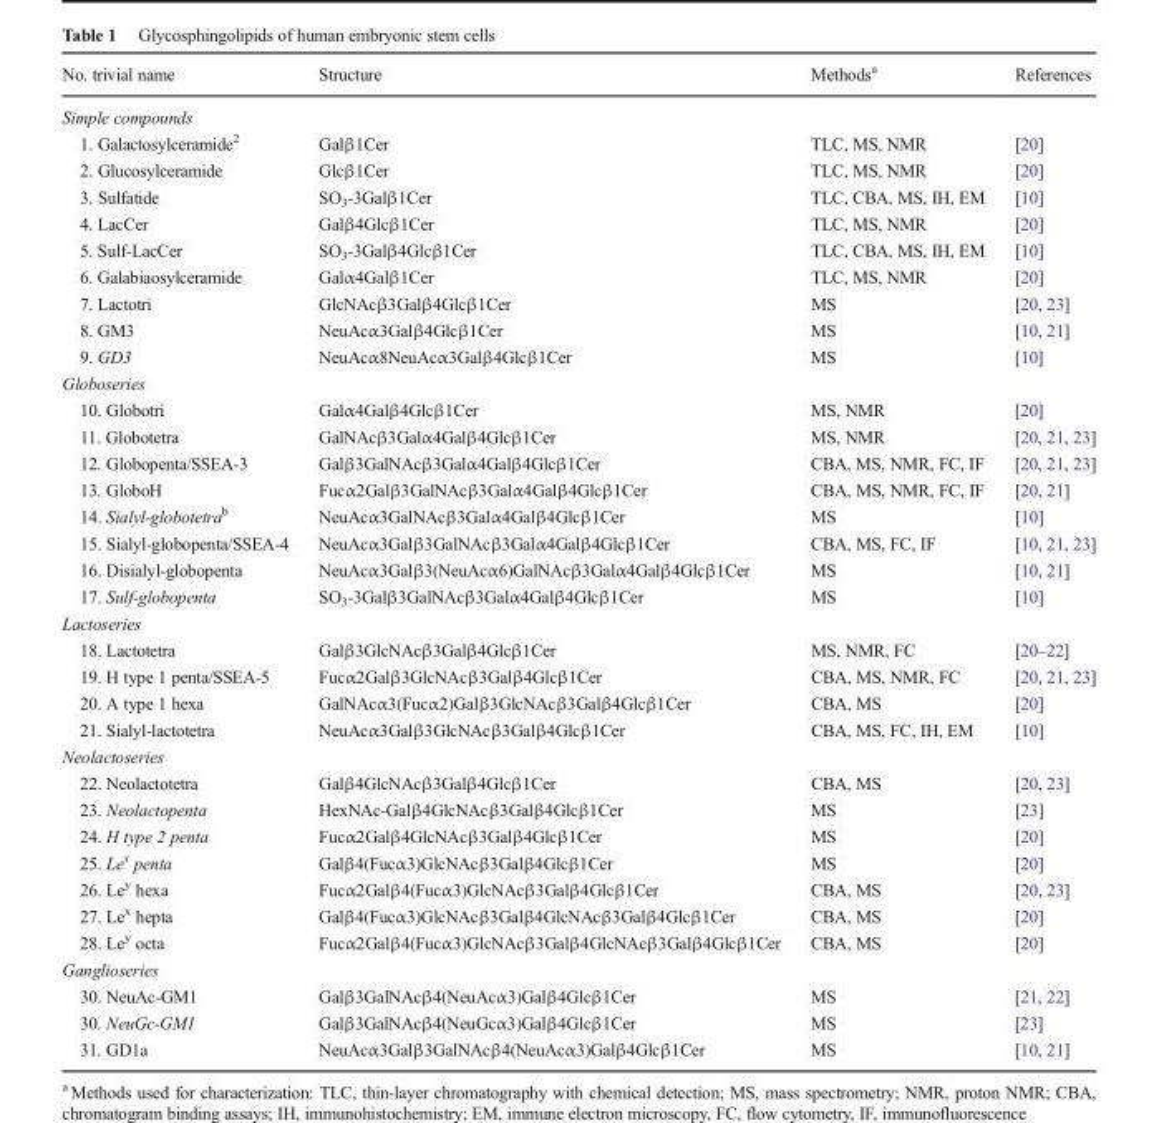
<table><thead><tr><td>No. trivial name</td><td>Structure</td><td>Methods<sup>a</sup></td><td>References</td></tr></thead><tbody><tr><td colspan="4">Simple compounds</td></tr><tr><td>1. Galactosylceramide<sup>2</sup></td><td>Galβ1Cer</td><td>TLC, MS, NMR</td><td>[20]</td></tr><tr><td>2. Glucosylceramide</td><td>Glcβ1Cer</td><td>TLC, MS, NMR</td><td>[20]</td></tr><tr><td>3. Sulfatide</td><td>SO<sub>3</sub>-3Galβ1Cer</td><td>TLC, CBA, MS, IH, EM</td><td>[10]</td></tr><tr><td>4. LacCer</td><td>Galβ4Glcβ1Cer</td><td>TLC, MS, NMR</td><td>[20]</td></tr><tr><td>5. Sulf-LacCer</td><td>SO<sub>3</sub>-3Galβ4Glcβ1Cer</td><td>TLC, CBA, MS, IH, EM</td><td>[10]</td></tr><tr><td>6. Galabiaosylceramide</td><td>Galα4Galβ1Cer</td><td>TLC, MS, NMR</td><td>[20]</td></tr><tr><td>7. Lactotri</td><td>GlcNAcβ3Galβ4Glcβ1Cer</td><td>MS</td><td>[20, 23]</td></tr><tr><td>8. GM3</td><td>NeuAcα3Galβ4Glcβ1Cer</td><td>MS</td><td>[10, 21]</td></tr><tr><td>9. GD3</td><td>NeuAcα8NeuAcα3Galβ4Glcβ1Cer</td><td>MS</td><td>[10]</td></tr><tr><td colspan="4">Globoseries</td></tr><tr><td>10. Globotri</td><td>Galα4Galβ4Glcβ1Cer</td><td>MS, NMR</td><td>[20]</td></tr><tr><td>11. Globotetra</td><td>GalNAcβ3Galα4Galβ4Glcβ1Cer</td><td>MS, NMR</td><td>[20, 21, 23]</td></tr><tr><td>12. Globopenta/SSEA-3</td><td>Galβ3GalNAcβ3Galα4Galβ4Glcβ1Cer</td><td>CBA, MS, NMR, FC, IF</td><td>[20, 21, 23]</td></tr><tr><td>13. GloboH</td><td>Fucα2Galβ3GalNAcβ3Galα4Galβ4Glcβ1Cer</td><td>CBA, MS, NMR, FC, IF</td><td>[20, 21]</td></tr><tr><td>14. Sialyl-globotetra<sup>b</sup></td><td>NeuAcα3GalNAcβ3Galα4Galβ4Glcβ1Cer</td><td>MS</td><td>[10]</td></tr><tr><td>15. Sialyl-globopenta/SSEA-4</td><td>NeuAcα3Galβ3GalNAcβ3Galα4Galβ4Glcβ1Cer</td><td>CBA, MS, FC, IF</td><td>[10, 21, 23]</td></tr><tr><td>16. Disialyl-globopenta</td><td>NeuAcα3Galβ3(NeuAcα6)GalNAcβ3Galα4Galβ4Glcβ1Cer</td><td>MS</td><td>[10, 21]</td></tr><tr><td>17. Sulf-globopenta</td><td>SO<sub>3</sub>-3Galβ3GalNAcβ3Galα4Galβ4Glcβ1Cer</td><td>MS</td><td>[10]</td></tr><tr><td colspan="4">Lactoseries</td></tr><tr><td>18. Lactotetra</td><td>Galβ3GlcNAcβ3Galβ4Glcβ1Cer</td><td>MS, NMR, FC</td><td>[20–22]</td></tr><tr><td>19. H type 1 penta/SSEA-5</td><td>Fucα2Galβ3GlcNAcβ3Galβ4Glcβ1Cer</td><td>CBA, MS, NMR, FC</td><td>[20, 21, 23]</td></tr><tr><td>20. A type 1 hexa</td><td>GalNAcα3(Fucα2)Galβ3GlcNAcβ3Galβ4Glcβ1Cer</td><td>CBA, MS</td><td>[20]</td></tr><tr><td>21. Sialyl-lactotetra</td><td>NeuAcα3Galβ3GlcNAcβ3Galβ4Glcβ1Cer</td><td>CBA, MS, FC, IH, EM</td><td>[10]</td></tr><tr><td colspan="4">Neolactoseries</td></tr><tr><td>22. Neolactotetra</td><td>Galβ4GlcNAcβ3Galβ4Glcβ1Cer</td><td>CBA, MS</td><td>[20, 23]</td></tr><tr><td>23. Neolactopenta</td><td>HexNAc-Galβ4GlcNAcβ3Galβ4Glcβ1Cer</td><td>MS</td><td>[23]</td></tr><tr><td>24. H type 2 penta</td><td>Fucα2Galβ4GlcNAcβ3Galβ4Glcβ1Cer</td><td>MS</td><td>[20]</td></tr><tr><td>25. Le<sup>x</sup> penta</td><td>Galβ4(Fucα3)GlcNAcβ3Galβ4Glcβ1Cer</td><td>MS</td><td>[20]</td></tr><tr><td>26. Le<sup>y</sup> hexa</td><td>Fucα2Galβ4(Fucα3)GlcNAcβ3Galβ4Glcβ1Cer</td><td>CBA, MS</td><td>[20, 23]</td></tr><tr><td>27. Le<sup>x</sup> hepta</td><td>Galβ4(Fucα3)GlcNAcβ3Galβ4GlcNAcβ3Galβ4Glcβ1Cer</td><td>CBA, MS</td><td>[20]</td></tr><tr><td>28. Le<sup>y</sup> octa</td><td>Fucα2Galβ4(Fucα3)GlcNAcβ3Galβ4GlcNAcβ3Galβ4Glcβ1Cer</td><td>CBA, MS</td><td>[20]</td></tr><tr><td colspan="4">Ganglioseries</td></tr><tr><td>30. NeuAc-GM1</td><td>Galβ3GalNAcβ4(NeuAcα3)Galβ4Glcβ1Cer</td><td>MS</td><td>[21, 22]</td></tr><tr><td>30. NeuGc-GM1</td><td>Galβ3GalNAcβ4(NeuGcα3)Galβ4Glcβ1Cer</td><td>MS</td><td>[23]</td></tr><tr><td>31. GD1a</td><td>NeuAcα3Galβ3GalNAcβ4(NeuAcα3)Galβ4Glcβ1Cer</td><td>MS</td><td>[10, 21]</td></tr></tbody></table>